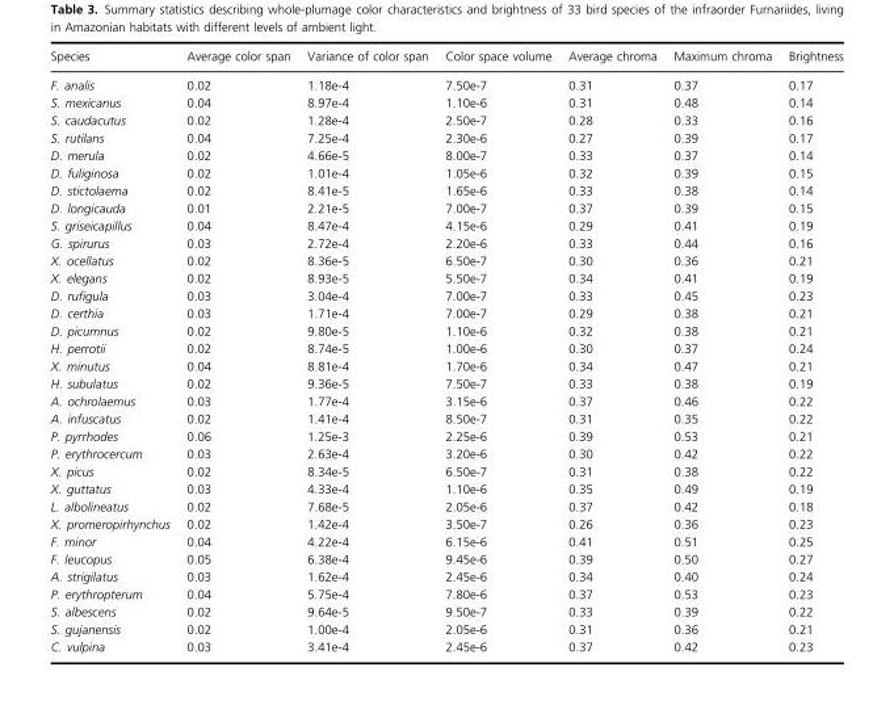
<table><thead><tr><td>Species</td><td>Average color span</td><td>Variance of color span</td><td>Color space volume</td><td>Average chroma</td><td>Maximum chroma</td><td>Brightness</td></tr></thead><tbody><tr><td>F. analis</td><td>0.02</td><td>1.18e-4</td><td>7.50e-7</td><td>0.31</td><td>0.37</td><td>0.17</td></tr><tr><td>S. mexicanus</td><td>0.04</td><td>8.97e-4</td><td>1.10e-6</td><td>0.31</td><td>0.48</td><td>0.14</td></tr><tr><td>S. caudacutus</td><td>0.02</td><td>1.28e-4</td><td>2.50e-7</td><td>0.28</td><td>0.33</td><td>0.16</td></tr><tr><td>S. rutilans</td><td>0.04</td><td>7.25e-4</td><td>2.30e-6</td><td>0.27</td><td>0.39</td><td>0.17</td></tr><tr><td>D. merula</td><td>0.02</td><td>4.66e-5</td><td>8.00e-7</td><td>0.33</td><td>0.37</td><td>0.14</td></tr><tr><td>D. fuliginosa</td><td>0.02</td><td>1.01e-4</td><td>1.05e-6</td><td>0.32</td><td>0.39</td><td>0.15</td></tr><tr><td>D. stictolaema</td><td>0.02</td><td>8.41e-5</td><td>1.65e-6</td><td>0.33</td><td>0.38</td><td>0.14</td></tr><tr><td>D. longicauda</td><td>0.01</td><td>2.21e-5</td><td>7.00e-7</td><td>0.37</td><td>0.39</td><td>0.15</td></tr><tr><td>S. griseicapillus</td><td>0.04</td><td>8.47e-4</td><td>4.15e-6</td><td>0.29</td><td>0.41</td><td>0.19</td></tr><tr><td>G. spirurus</td><td>0.03</td><td>2.72e-4</td><td>2.20e-6</td><td>0.33</td><td>0.44</td><td>0.16</td></tr><tr><td>X. ocellatus</td><td>0.02</td><td>8.36e-5</td><td>6.50e-7</td><td>0.30</td><td>0.36</td><td>0.21</td></tr><tr><td>X. elegans</td><td>0.02</td><td>8.93e-5</td><td>5.50e-7</td><td>0.34</td><td>0.41</td><td>0.19</td></tr><tr><td>D. rufigula</td><td>0.03</td><td>3.04e-4</td><td>7.00e-7</td><td>0.33</td><td>0.45</td><td>0.23</td></tr><tr><td>D. certhia</td><td>0.03</td><td>1.71e-4</td><td>7.00e-7</td><td>0.29</td><td>0.38</td><td>0.21</td></tr><tr><td>D. picumnus</td><td>0.02</td><td>9.80e-5</td><td>1.10e-6</td><td>0.32</td><td>0.38</td><td>0.21</td></tr><tr><td>H. perrotii</td><td>0.02</td><td>8.74e-5</td><td>1.00e-6</td><td>0.30</td><td>0.37</td><td>0.24</td></tr><tr><td>X. minutus</td><td>0.04</td><td>8.81e-4</td><td>1.70e-6</td><td>0.34</td><td>0.47</td><td>0.21</td></tr><tr><td>H. subulatus</td><td>0.02</td><td>9.36e-5</td><td>7.50e-7</td><td>0.33</td><td>0.38</td><td>0.19</td></tr><tr><td>A. ochrolaemus</td><td>0.03</td><td>1.77e-4</td><td>3.15e-6</td><td>0.37</td><td>0.46</td><td>0.22</td></tr><tr><td>A. infuscatus</td><td>0.02</td><td>1.41e-4</td><td>8.50e-7</td><td>0.31</td><td>0.35</td><td>0.22</td></tr><tr><td>P. pyrrhodes</td><td>0.06</td><td>1.25e-3</td><td>2.25e-6</td><td>0.39</td><td>0.53</td><td>0.21</td></tr><tr><td>P. erythrocercum</td><td>0.03</td><td>2.63e-4</td><td>3.20e-6</td><td>0.30</td><td>0.42</td><td>0.22</td></tr><tr><td>X. picus</td><td>0.02</td><td>8.34e-5</td><td>6.50e-7</td><td>0.31</td><td>0.38</td><td>0.22</td></tr><tr><td>X. guttatus</td><td>0.03</td><td>4.33e-4</td><td>1.10e-6</td><td>0.35</td><td>0.49</td><td>0.19</td></tr><tr><td>L. albolineatus</td><td>0.02</td><td>7.68e-5</td><td>2.05e-6</td><td>0.37</td><td>0.42</td><td>0.18</td></tr><tr><td>X. promeropirhynchus</td><td>0.02</td><td>1.42e-4</td><td>3.50e-7</td><td>0.26</td><td>0.36</td><td>0.23</td></tr><tr><td>F. minor</td><td>0.04</td><td>4.22e-4</td><td>6.15e-6</td><td>0.41</td><td>0.51</td><td>0.25</td></tr><tr><td>F. leucopus</td><td>0.05</td><td>6.38e-4</td><td>9.45e-6</td><td>0.39</td><td>0.50</td><td>0.27</td></tr><tr><td>A. strigilatus</td><td>0.03</td><td>1.62e-4</td><td>2.45e-6</td><td>0.34</td><td>0.40</td><td>0.24</td></tr><tr><td>P. erythropterum</td><td>0.04</td><td>5.75e-4</td><td>7.80e-6</td><td>0.37</td><td>0.53</td><td>0.23</td></tr><tr><td>S. albescens</td><td>0.02</td><td>9.64e-5</td><td>9.50e-7</td><td>0.33</td><td>0.39</td><td>0.22</td></tr><tr><td>S. gujanensis</td><td>0.02</td><td>1.00e-4</td><td>2.05e-6</td><td>0.31</td><td>0.36</td><td>0.21</td></tr><tr><td>C. vulpina</td><td>0.03</td><td>3.41e-4</td><td>2.45e-6</td><td>0.37</td><td>0.42</td><td>0.23</td></tr></tbody></table>